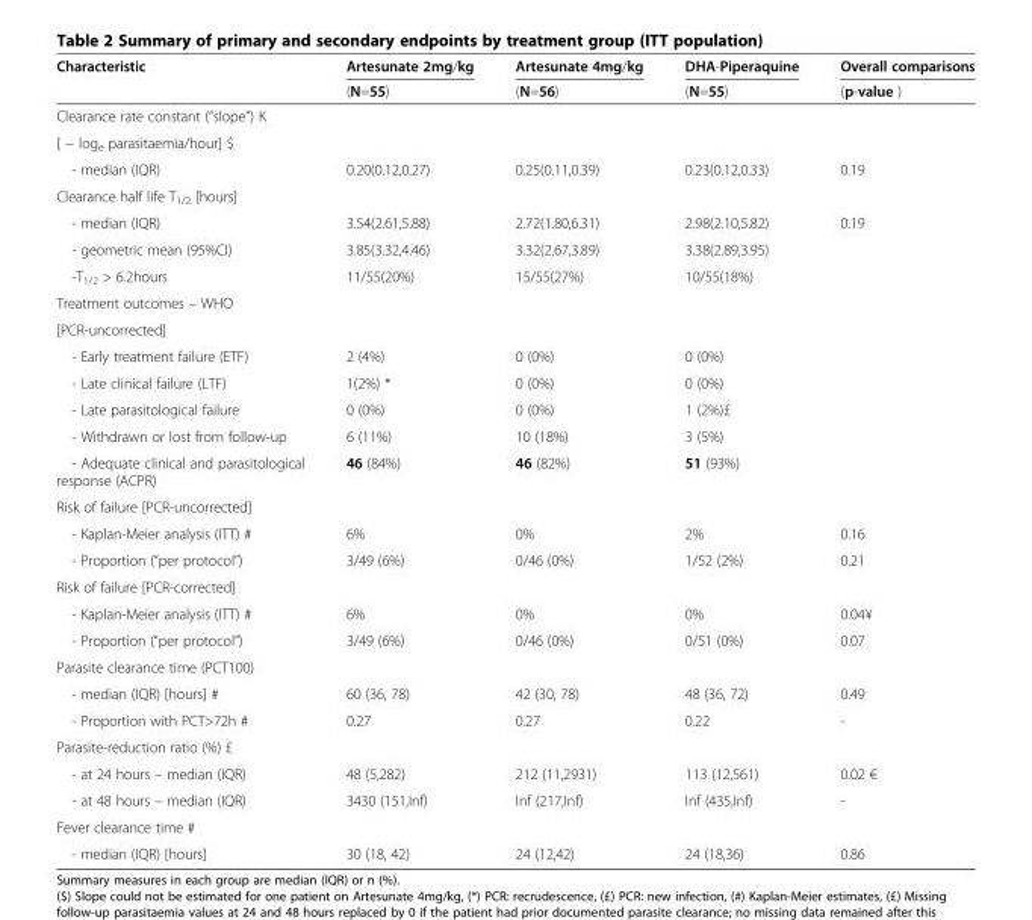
<table><thead><tr><td rowspan="2">Characteristic</td><td rowspan="2">Artesunate 2mg/kg (N=55)</td><td rowspan="2">Artesunate 4mg/kg (N=56)</td><td rowspan="2">DHA-Piperaquine (N=55)</td><td rowspan="2">Overall comparisons (p-value )</td></tr><tr></tr></thead><tbody><tr><td colspan="5">Clearance rate constant (“slope”) K</td></tr><tr><td colspan="5">[ − log<sub>e</sub> parasitaemia/hour] $</td></tr><tr><td>- median (IQR)</td><td>0.20(0.12,0.27)</td><td>0.25(0.11,0.39)</td><td>0.23(0.12,0.33)</td><td>0.19</td></tr><tr><td colspan="5">Clearance half life T<sub>1/2</sub> [hours]</td></tr><tr><td>- median (IQR)</td><td>3.54(2.61,5.88)</td><td>2.72(1.80,6.31)</td><td>2.98(2.10,5.82)</td><td>0.19</td></tr><tr><td>- geometric mean (95%CI)</td><td>3.85(3.32,4.46)</td><td>3.32(2.67,3.89)</td><td>3.38(2.89,3.95)</td><td></td></tr><tr><td>-T<sub>1/2</sub> &gt; 6.2hours</td><td>11/55(20%)</td><td>15/55(27%)</td><td>10/55(18%)</td><td></td></tr><tr><td colspan="5">Treatment outcomes – WHO</td></tr><tr><td colspan="5">[PCR-uncorrected]</td></tr><tr><td>- Early treatment failure (ETF)</td><td>2 (4%)</td><td>0 (0%)</td><td>0 (0%)</td><td></td></tr><tr><td>- Late clinical failure (LTF)</td><td>1(2%) *</td><td>0 (0%)</td><td>0 (0%)</td><td></td></tr><tr><td>- Late parasitological failure</td><td>0 (0%)</td><td>0 (0%)</td><td>1 (2%)£</td><td></td></tr><tr><td>- Withdrawn or lost from follow-up</td><td>6 (11%)</td><td>10 (18%)</td><td>3 (5%)</td><td></td></tr><tr><td>- Adequate clinical and parasitological response (ACPR)</td><td>46 (84%)</td><td>46 (82%)</td><td>51 (93%)</td><td></td></tr><tr><td colspan="5">Risk of failure [PCR-uncorrected]</td></tr><tr><td>- Kaplan-Meier analysis (ITT) #</td><td>6%</td><td>0%</td><td>2%</td><td>0.16</td></tr><tr><td>- Proportion (“per protocol”)</td><td>3/49 (6%)</td><td>0/46 (0%)</td><td>1/52 (2%)</td><td>0.21</td></tr><tr><td colspan="5">Risk of failure [PCR-corrected]</td></tr><tr><td>- Kaplan-Meier analysis (ITT) #</td><td>6%</td><td>0%</td><td>0%</td><td>0.04¥</td></tr><tr><td>- Proportion (“per protocol”)</td><td>3/49 (6%)</td><td>0/46 (0%)</td><td>0/51 (0%)</td><td>0.07</td></tr><tr><td colspan="5">Parasite clearance time (PCT100)</td></tr><tr><td>- median (IQR) [hours] #</td><td>60 (36, 78)</td><td>42 (30, 78)</td><td>48 (36, 72)</td><td>0.49</td></tr><tr><td>- Proportion with PCT&gt;72h #</td><td>0.27</td><td>0.27</td><td>0.22</td><td>-</td></tr><tr><td colspan="5">Parasite-reduction ratio (%) £</td></tr><tr><td>- at 24 hours – median (IQR)</td><td>48 (5,282)</td><td>212 (11,2931)</td><td>113 (12,561)</td><td>0.02 €</td></tr><tr><td>- at 48 hours – median (IQR)</td><td>3430 (151,Inf)</td><td>Inf (217,Inf)</td><td>Inf (435,Inf)</td><td>-</td></tr><tr><td colspan="5">Fever clearance time #</td></tr><tr><td>- median (IQR) [hours]</td><td>30 (18, 42)</td><td>24 (12,42)</td><td>24 (18,36)</td><td>0.86</td></tr></tbody></table>